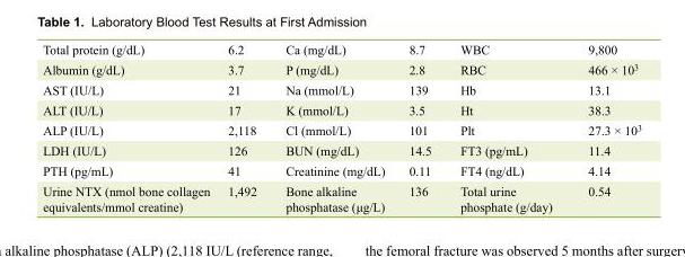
<table><tbody><tr><td>Total protein (g/dL)</td><td>6.2</td><td>Ca (mg/dL)</td><td>8.7</td><td>WBC</td><td>9,800</td></tr><tr><td>Albumin (g/dL)</td><td>3.7</td><td>P (mg/dL)</td><td>2.8</td><td>RBC</td><td>466 × 10<sup>3</sup></td></tr><tr><td>AST (IU/L)</td><td>21</td><td>Na (mmol/L)</td><td>139</td><td>Hb</td><td>13.1</td></tr><tr><td>ALT (IU/L)</td><td>17</td><td>K (mmol/L)</td><td>3.5</td><td>Ht</td><td>38.3</td></tr><tr><td>ALP (IU/L)</td><td>2,118</td><td>Cl (mmol/L)</td><td>101</td><td>Plt</td><td>27.3 × 10<sup>3</sup></td></tr><tr><td>LDH (IU/L)</td><td>126</td><td>BUN (mg/dL)</td><td>14.5</td><td>FT3 (pg/mL)</td><td>11.4</td></tr><tr><td>PTH (pg/mL)</td><td>41</td><td>Creatinine (mg/dL)</td><td>0.11</td><td>FT4 (ng/dL)</td><td>4.14</td></tr><tr><td>Urine NTX (nmol bone collagen equivalents/mmol creatine)</td><td>1,492</td><td>Bone alkaline phosphatase (μg/L)</td><td>136</td><td>Total urine phosphate (g/day)</td><td>0.54</td></tr></tbody></table>